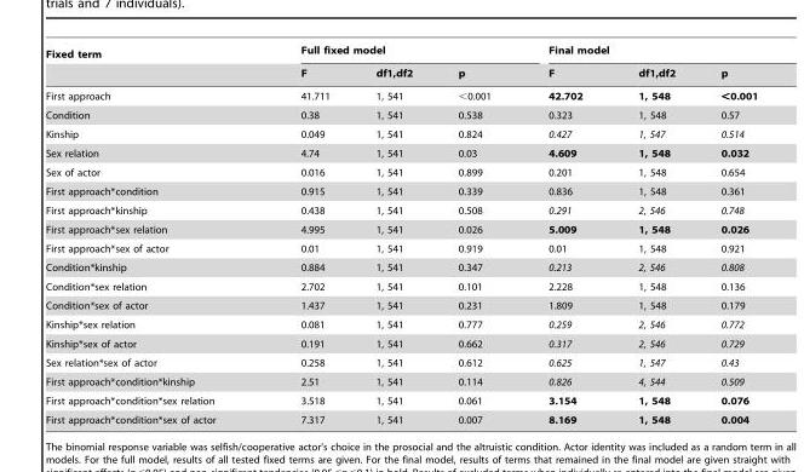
<table><thead><tr><td rowspan="2">Fixed term</td><td colspan="3">Full fixed model</td><td colspan="3">Final model</td></tr><tr><td>F</td><td>df1,df2</td><td>p</td><td>F</td><td>df1,df2</td><td>p</td></tr></thead><tbody><tr><td>First approach</td><td>41.711</td><td>1, 541</td><td>&lt;0.001</td><td>42.702</td><td>1, 548</td><td>&lt;0.001</td></tr><tr><td>Condition</td><td>0.38</td><td>1, 541</td><td>0.538</td><td>0.323</td><td>1, 548</td><td>0.57</td></tr><tr><td>Kinship</td><td>0.049</td><td>1, 541</td><td>0.824</td><td>0.427</td><td>1, 547</td><td>0.514</td></tr><tr><td>Sex relation</td><td>4.74</td><td>1, 541</td><td>0.03</td><td>4.609</td><td>1, 548</td><td>0.032</td></tr><tr><td>Sex of actor</td><td>0.016</td><td>1, 541</td><td>0.899</td><td>0.201</td><td>1, 548</td><td>0.654</td></tr><tr><td>First approach*condition</td><td>0.915</td><td>1, 541</td><td>0.339</td><td>0.836</td><td>1, 548</td><td>0.361</td></tr><tr><td>First approach*kinship</td><td>0.438</td><td>1, 541</td><td>0.508</td><td>0.291</td><td>2, 546</td><td>0.748</td></tr><tr><td>First approach*sex relation</td><td>4.995</td><td>1, 541</td><td>0.026</td><td>5.009</td><td>1, 548</td><td>0.026</td></tr><tr><td>First approach*sex of actor</td><td>0.01</td><td>1, 541</td><td>0.919</td><td>0.01</td><td>1, 548</td><td>0.921</td></tr><tr><td>Condition*kinship</td><td>0.884</td><td>1, 541</td><td>0.347</td><td>0.213</td><td>2, 546</td><td>0.808</td></tr><tr><td>Condition*sex relation</td><td>2.702</td><td>1, 541</td><td>0.101</td><td>2.228</td><td>1, 548</td><td>0.136</td></tr><tr><td>Condition*sex of actor</td><td>1.437</td><td>1, 541</td><td>0.231</td><td>1.809</td><td>1, 548</td><td>0.179</td></tr><tr><td>Kinship*sex relation</td><td>0.081</td><td>1, 541</td><td>0.777</td><td>0.259</td><td>2, 546</td><td>0.772</td></tr><tr><td>Kinship*sex of actor</td><td>0.191</td><td>1, 541</td><td>0.662</td><td>0.317</td><td>2, 546</td><td>0.729</td></tr><tr><td>Sex relation*sex of actor</td><td>0.258</td><td>1, 541</td><td>0.612</td><td>0.625</td><td>1, 547</td><td>0.43</td></tr><tr><td>First approach*condition*kinship</td><td>2.51</td><td>1, 541</td><td>0.114</td><td>0.826</td><td>4, 544</td><td>0.509</td></tr><tr><td>First approach*condition*sex relation</td><td>3.518</td><td>1, 541</td><td>0.061</td><td>3.154</td><td>1, 548</td><td>0.076</td></tr><tr><td>First approach*condition*sex of actor</td><td>7.317</td><td>1, 541</td><td>0.007</td><td>8.169</td><td>1, 548</td><td>0.004</td></tr></tbody></table>